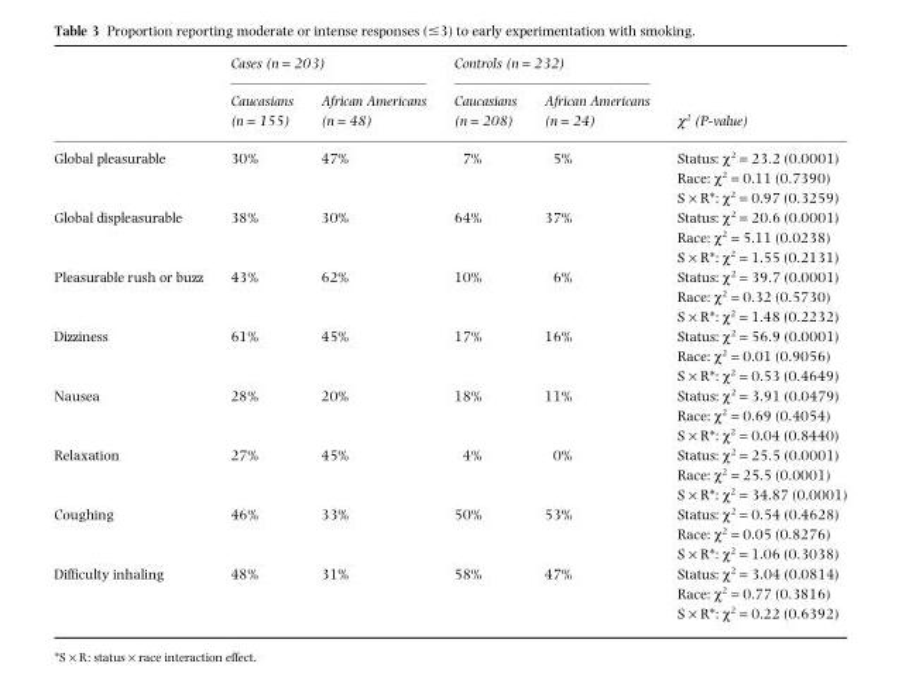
<table><thead><tr><td rowspan="2"></td><td colspan="2">Cases (n = 203)</td><td colspan="2">Controls (n = 232)</td><td rowspan="2">χ<sup>2</sup> (P-value)</td></tr><tr><td>Caucasians (n = 155)</td><td>African Americans (n = 48)</td><td>Caucasians (n = 208)</td><td>African Americans (n = 24)</td></tr></thead><tbody><tr><td rowspan="3">Global pleasurable</td><td>30%</td><td>47%</td><td>7%</td><td>5%</td><td>Status: χ<sup>2</sup> = 23.2 (0.0001)</td></tr><tr><td></td><td></td><td></td><td></td><td>Race: χ<sup>2</sup> = 0.11 (0.7390)</td></tr><tr><td></td><td></td><td></td><td></td><td>S × R*: χ<sup>2</sup> = 0.97 (0.3259)</td></tr><tr><td rowspan="3">Global displeasurable</td><td>38%</td><td>30%</td><td>64%</td><td>37%</td><td>Status: χ<sup>2</sup> = 20.6 (0.0001)</td></tr><tr><td></td><td></td><td></td><td></td><td>Race: χ<sup>2</sup> = 5.11 (0.0238)</td></tr><tr><td></td><td></td><td></td><td></td><td>S × R*: χ<sup>2</sup> = 1.55 (0.2131)</td></tr><tr><td rowspan="3">Pleasurable rush or buzz</td><td>43%</td><td>62%</td><td>10%</td><td>6%</td><td>Status: χ<sup>2</sup> = 39.7 (0.0001)</td></tr><tr><td></td><td></td><td></td><td></td><td>Race: χ<sup>2</sup> = 0.32 (0.5730)</td></tr><tr><td></td><td></td><td></td><td></td><td>S × R*: χ<sup>2</sup> = 1.48 (0.2232)</td></tr><tr><td rowspan="3">Dizziness</td><td>61%</td><td>45%</td><td>17%</td><td>16%</td><td>Status: χ<sup>2</sup> = 56.9 (0.0001)</td></tr><tr><td></td><td></td><td></td><td></td><td>Race: χ<sup>2</sup> = 0.01 (0.9056)</td></tr><tr><td></td><td></td><td></td><td></td><td>S × R*: χ<sup>2</sup> = 0.53 (0.4649)</td></tr><tr><td rowspan="3">Nausea</td><td>28%</td><td>20%</td><td>18%</td><td>11%</td><td>Status: χ<sup>2</sup> = 3.91 (0.0479)</td></tr><tr><td></td><td></td><td></td><td></td><td>Race: χ<sup>2</sup> = 0.69 (0.4054)</td></tr><tr><td></td><td></td><td></td><td></td><td>S × R*: χ<sup>2</sup> = 0.04 (0.8440)</td></tr><tr><td rowspan="3">Relaxation</td><td>27%</td><td>45%</td><td>4%</td><td>0%</td><td>Status: χ<sup>2</sup> = 25.5 (0.0001)</td></tr><tr><td></td><td></td><td></td><td></td><td>Race: χ<sup>2</sup> = 25.5 (0.0001)</td></tr><tr><td></td><td></td><td></td><td></td><td>S × R*: χ<sup>2</sup> = 34.87 (0.0001)</td></tr><tr><td rowspan="3">Coughing</td><td>46%</td><td>33%</td><td>50%</td><td>53%</td><td>Status: χ<sup>2</sup> = 0.54 (0.4628)</td></tr><tr><td></td><td></td><td></td><td></td><td>Race: χ<sup>2</sup> = 0.05 (0.8276)</td></tr><tr><td></td><td></td><td></td><td></td><td>S × R*: χ<sup>2</sup> = 1.06 (0.3038)</td></tr><tr><td rowspan="3">Difficulty inhaling</td><td>48%</td><td>31%</td><td>58%</td><td>47%</td><td>Status: χ<sup>2</sup> = 3.04 (0.0814)</td></tr><tr><td></td><td></td><td></td><td></td><td>Race: χ<sup>2</sup> = 0.77 (0.3816)</td></tr><tr><td></td><td></td><td></td><td></td><td>S × R*: χ<sup>2</sup> = 0.22 (0.6392)</td></tr></tbody></table>